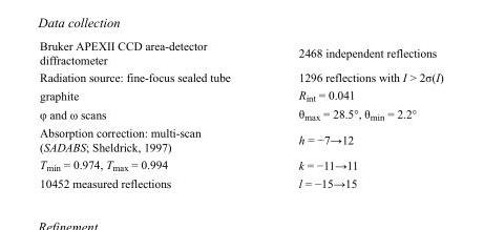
<table><tbody><tr><td>Bruker APEXII CCD area-detector diffractometer</td><td>2468 independent reflections</td></tr><tr><td>Radiation source: fine-focus sealed tube</td><td>1296 reflections with I &gt; 2σ(I)</td></tr><tr><td>graphite</td><td>R<sub>int</sub> = 0.041</td></tr><tr><td>φ and ω scans</td><td>θ<sub>max</sub> = 28.5°, θ<sub>min</sub> = 2.2°</td></tr><tr><td>Absorption correction: multi-scan (SADABS; Sheldrick, 1997)</td><td>h = −7→12</td></tr><tr><td>T<sub>min</sub> = 0.974, T<sub>max</sub> = 0.994</td><td>k = −11→11</td></tr><tr><td>10452 measured reflections</td><td>l = −15→15</td></tr></tbody></table>